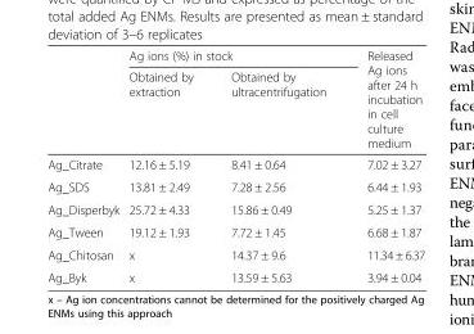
<table><thead><tr><td rowspan="2"></td><td colspan="2">Ag ions (%) in stock</td><td rowspan="2">Released Ag ions after 24 h incubation in cell culture medium</td></tr><tr><td>Obtained by extraction</td><td>Obtained by ultracentrifugation</td></tr></thead><tbody><tr><td>Ag_Citrate</td><td>12.16 ± 5.19</td><td>8.41 ± 0.64</td><td>7.02 ± 3.27</td></tr><tr><td>Ag_SDS</td><td>13.81 ± 2.49</td><td>7.28 ± 2.56</td><td>6.44 ± 1.93</td></tr><tr><td>Ag_Disperbyk</td><td>25.72 ± 4.33</td><td>15.86 ± 0.49</td><td>5.25 ± 1.37</td></tr><tr><td>Ag_Tween</td><td>19.12 ± 1.93</td><td>7.72 ± 1.45</td><td>6.68 ± 1.87</td></tr><tr><td>Ag_Chitosan</td><td>x</td><td>14.37 ± 9.6</td><td>11.34 ± 6.37</td></tr><tr><td>Ag_Byk</td><td>x</td><td>13.59 ± 5.63</td><td>3.94 ± 0.04</td></tr></tbody></table>